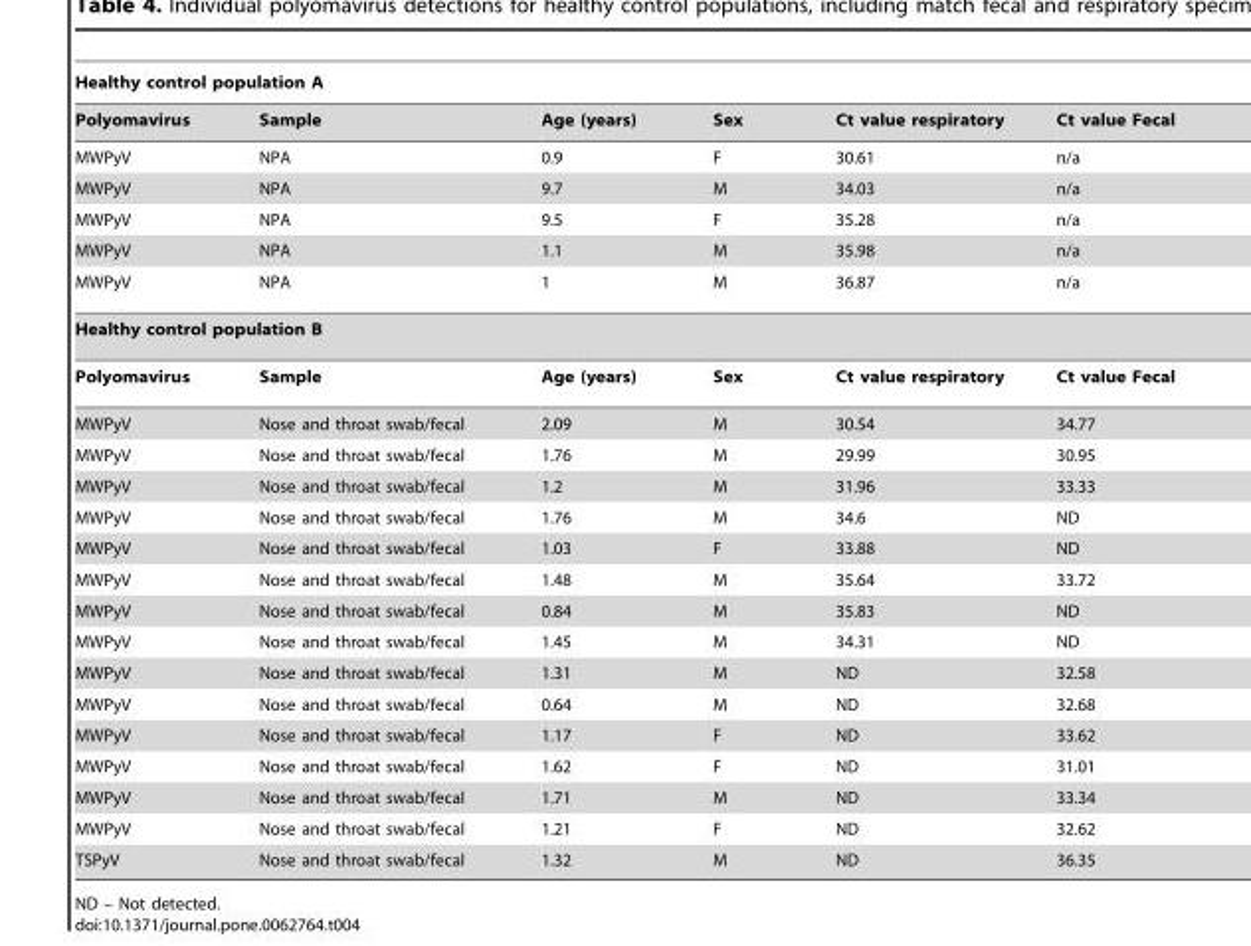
<table><thead><tr><td colspan="6">Healthy control population A</td></tr><tr><td>Polyomavirus</td><td>Sample</td><td>Age (years)</td><td>Sex</td><td>Ct value respiratory</td><td>Ct value Fecal</td></tr></thead><tbody><tr><td>MWPyV</td><td>NPA</td><td>0.9</td><td>F</td><td>30.61</td><td>n/a</td></tr><tr><td>MWPyV</td><td>NPA</td><td>9.7</td><td>M</td><td>34.03</td><td>n/a</td></tr><tr><td>MWPyV</td><td>NPA</td><td>9.5</td><td>F</td><td>35.28</td><td>n/a</td></tr><tr><td>MWPyV</td><td>NPA</td><td>1.1</td><td>M</td><td>35.98</td><td>n/a</td></tr><tr><td>MWPyV</td><td>NPA</td><td>1</td><td>M</td><td>36.87</td><td>n/a</td></tr><tr><td colspan="6">Healthy control population B</td></tr><tr><td>Polyomavirus</td><td>Sample</td><td>Age (years)</td><td>Sex</td><td>Ct value respiratory</td><td>Ct value Fecal</td></tr><tr><td>MWPyV</td><td>Nose and throat swab/fecal</td><td>2.09</td><td>M</td><td>30.54</td><td>34.77</td></tr><tr><td>MWPyV</td><td>Nose and throat swab/fecal</td><td>1.76</td><td>M</td><td>29.99</td><td>30.95</td></tr><tr><td>MWPyV</td><td>Nose and throat swab/fecal</td><td>1.2</td><td>M</td><td>31.96</td><td>33.33</td></tr><tr><td>MWPyV</td><td>Nose and throat swab/fecal</td><td>1.76</td><td>M</td><td>34.6</td><td>ND</td></tr><tr><td>MWPyV</td><td>Nose and throat swab/fecal</td><td>1.03</td><td>F</td><td>33.88</td><td>ND</td></tr><tr><td>MWPyV</td><td>Nose and throat swab/fecal</td><td>1.48</td><td>M</td><td>35.64</td><td>33.72</td></tr><tr><td>MWPyV</td><td>Nose and throat swab/fecal</td><td>0.84</td><td>M</td><td>35.83</td><td>ND</td></tr><tr><td>MWPyV</td><td>Nose and throat swab/fecal</td><td>1.45</td><td>M</td><td>34.31</td><td>ND</td></tr><tr><td>MWPyV</td><td>Nose and throat swab/fecal</td><td>1.31</td><td>M</td><td>ND</td><td>32.58</td></tr><tr><td>MWPyV</td><td>Nose and throat swab/fecal</td><td>0.64</td><td>M</td><td>ND</td><td>32.68</td></tr><tr><td>MWPyV</td><td>Nose and throat swab/fecal</td><td>1.17</td><td>F</td><td>ND</td><td>33.62</td></tr><tr><td>MWPyV</td><td>Nose and throat swab/fecal</td><td>1.62</td><td>F</td><td>ND</td><td>31.01</td></tr><tr><td>MWPyV</td><td>Nose and throat swab/fecal</td><td>1.71</td><td>M</td><td>ND</td><td>33.34</td></tr><tr><td>MWPyV</td><td>Nose and throat swab/fecal</td><td>1.21</td><td>F</td><td>ND</td><td>32.62</td></tr><tr><td>TSPyV</td><td>Nose and throat swab/fecal</td><td>1.32</td><td>M</td><td>ND</td><td>36.35</td></tr></tbody></table>